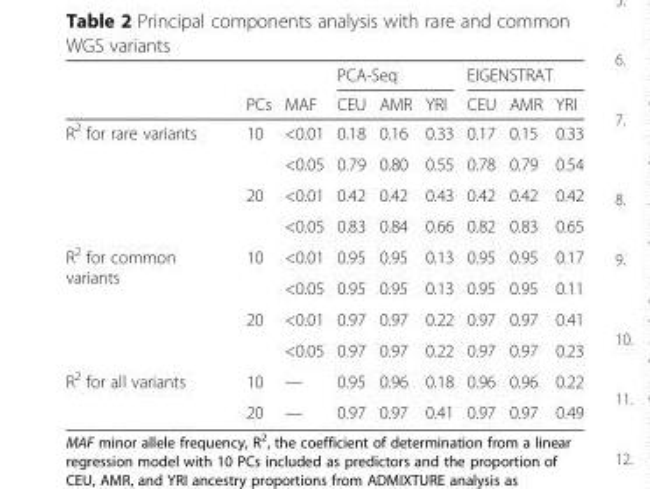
<table><thead><tr><td rowspan="2"></td><td rowspan="2">PCs</td><td rowspan="2">MAF</td><td colspan="3">PCA-Seq</td><td colspan="3">EIGENSTRAT</td></tr><tr><td>CEU</td><td>AMR</td><td>YRI</td><td>CEU</td><td>AMR</td><td>YRI</td></tr></thead><tbody><tr><td rowspan="4">R<sup>2</sup> for rare variants</td><td rowspan="2">10</td><td>&lt;0.01</td><td>0.18</td><td>0.16</td><td>0.33</td><td>0.17</td><td>0.15</td><td>0.33</td></tr><tr><td>&lt;0.05</td><td>0.79</td><td>0.80</td><td>0.55</td><td>0.78</td><td>0.79</td><td>0.54</td></tr><tr><td rowspan="2">20</td><td>&lt;0.01</td><td>0.42</td><td>0.42</td><td>0.43</td><td>0.42</td><td>0.42</td><td>0.42</td></tr><tr><td>&lt;0.05</td><td>0.83</td><td>0.84</td><td>0.66</td><td>0.82</td><td>0.83</td><td>0.65</td></tr><tr><td rowspan="4">R<sup>2</sup> for common variants</td><td rowspan="2">10</td><td>&lt;0.01</td><td>0.95</td><td>0.95</td><td>0.13</td><td>0.95</td><td>0.95</td><td>0.17</td></tr><tr><td>&lt;0.05</td><td>0.95</td><td>0.95</td><td>0.13</td><td>0.95</td><td>0.95</td><td>0.11</td></tr><tr><td rowspan="2">20</td><td>&lt;0.01</td><td>0.97</td><td>0.97</td><td>0.22</td><td>0.97</td><td>0.97</td><td>0.41</td></tr><tr><td>&lt;0.05</td><td>0.97</td><td>0.97</td><td>0.22</td><td>0.97</td><td>0.97</td><td>0.23</td></tr><tr><td rowspan="2">R<sup>2</sup> for all variants</td><td>10</td><td>—</td><td>0.95</td><td>0.96</td><td>0.18</td><td>0.96</td><td>0.96</td><td>0.22</td></tr><tr><td>20</td><td>—</td><td>0.97</td><td>0.97</td><td>0.41</td><td>0.97</td><td>0.97</td><td>0.49</td></tr></tbody></table>